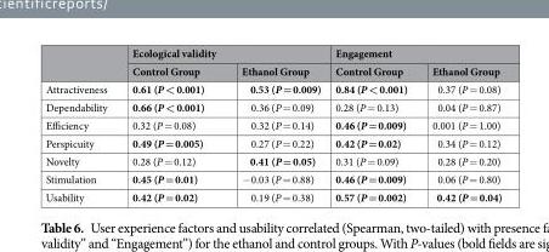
<table><thead><tr><td rowspan="2"></td><td colspan="2">Ecological validity</td><td colspan="2">Engagement</td></tr><tr><td>Control Group</td><td>Ethanol Group</td><td>Control Group</td><td>Ethanol Group</td></tr></thead><tbody><tr><td>Attractiveness</td><td>0.61 (P &lt; 0.001)</td><td>0.53 (P = 0.009)</td><td>0.84 (P &lt; 0.001)</td><td>0.37 (P = 0.08)</td></tr><tr><td>Dependability</td><td>0.66 (P &lt; 0.001)</td><td>0.36 (P = 0.09)</td><td>0.28 (P = 0.13)</td><td>0.04 (P = 0.87)</td></tr><tr><td>Efficiency</td><td>0.32 (P = 0.08)</td><td>0.32 (P = 0.14)</td><td>0.46 (P = 0.009)</td><td>0.001 (P = 1.00)</td></tr><tr><td>Perspicuity</td><td>0.49 (P = 0.005)</td><td>0.27 (P = 0.22)</td><td>0.42 (P = 0.02)</td><td>0.34 (P = 0.12)</td></tr><tr><td>Novelty</td><td>0.28 (P = 0.12)</td><td>0.41 (P = 0.05)</td><td>0.31 (P = 0.09)</td><td>0.28 (P = 0.20)</td></tr><tr><td>Stimulation</td><td>0.45 (P = 0.01)</td><td>−0.03 (P = 0.88)</td><td>0.46 (P = 0.009)</td><td>0.06 (P = 0.80)</td></tr><tr><td>Usability</td><td>0.42 (P = 0.02)</td><td>0.19 (P = 0.38)</td><td>0.57 (P = 0.002)</td><td>0.42 (P = 0.04)</td></tr></tbody></table>